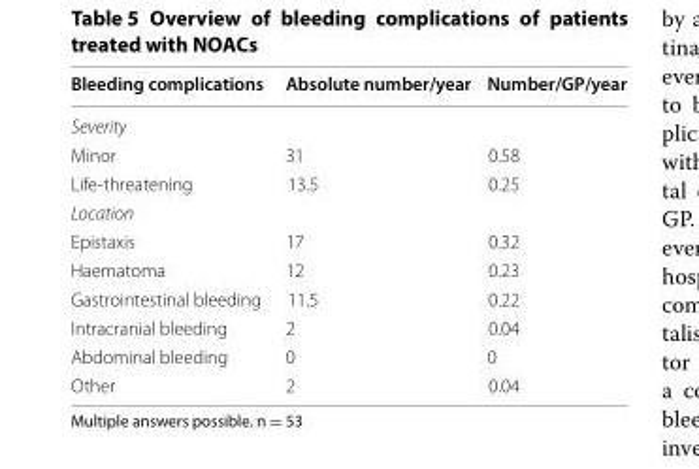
<table><thead><tr><td>Bleeding complications</td><td>Absolute number/year</td><td>Number/GP/year</td></tr></thead><tbody><tr><td colspan="3">Severity</td></tr><tr><td>Minor</td><td>31</td><td>0.58</td></tr><tr><td>Life-threatening</td><td>13.5</td><td>0.25</td></tr><tr><td colspan="3">Location</td></tr><tr><td>Epistaxis</td><td>17</td><td>0.32</td></tr><tr><td>Haematoma</td><td>12</td><td>0.23</td></tr><tr><td>Gastrointestinal bleeding</td><td>11.5</td><td>0.22</td></tr><tr><td>Intracranial bleeding</td><td>2</td><td>0.04</td></tr><tr><td>Abdominal bleeding</td><td>0</td><td>0</td></tr><tr><td>Other</td><td>2</td><td>0.04</td></tr></tbody></table>